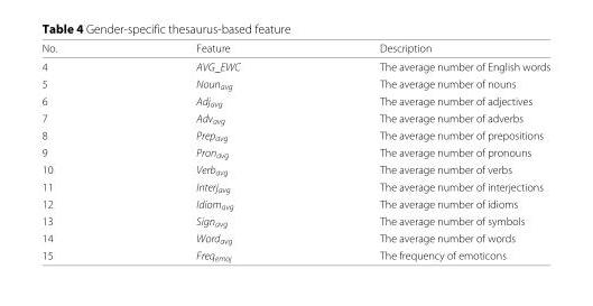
<table><thead><tr><td>No.</td><td>Feature</td><td>Description</td></tr></thead><tbody><tr><td>4</td><td>AVG_EWC</td><td>The average number of English words</td></tr><tr><td>5</td><td>Noun<sub>avg</sub></td><td>The average number of nouns</td></tr><tr><td>6</td><td>Adj<sub>avg</sub></td><td>The average number of adjectives</td></tr><tr><td>7</td><td>Adv<sub>avg</sub></td><td>The average number of adverbs</td></tr><tr><td>8</td><td>Prep<sub>avg</sub></td><td>The average number of prepositions</td></tr><tr><td>9</td><td>Pron<sub>avg</sub></td><td>The average number of pronouns</td></tr><tr><td>10</td><td>Verb<sub>avg</sub></td><td>The average number of verbs</td></tr><tr><td>11</td><td>Interj<sub>avg</sub></td><td>The average number of interjections</td></tr><tr><td>12</td><td>Idiom<sub>avg</sub></td><td>The average number of idioms</td></tr><tr><td>13</td><td>Sign<sub>avg</sub></td><td>The average number of symbols</td></tr><tr><td>14</td><td>Word<sub>avg</sub></td><td>The average number of words</td></tr><tr><td>15</td><td>Freq<sub>emoj</sub></td><td>The frequency of emoticons</td></tr></tbody></table>